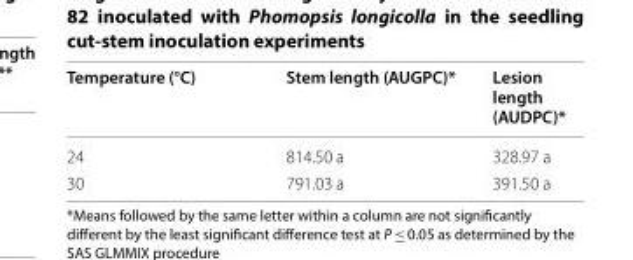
<table><thead><tr><td>Temperature (°C)</td><td>Stem length (AUGPC)*</td><td>Lesion length (AUDPC)*</td></tr></thead><tbody><tr><td>24</td><td>814.50 a</td><td>328.97 a</td></tr><tr><td>30</td><td>791.03 a</td><td>391.50 a</td></tr></tbody></table>